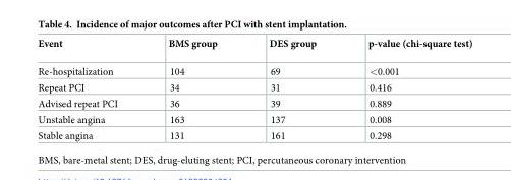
<table><thead><tr><td>Event</td><td>BMS group</td><td>DES group</td><td>p-value (chi-square test)</td></tr></thead><tbody><tr><td>Re-hospitalization</td><td>104</td><td>69</td><td>&lt;0.001</td></tr><tr><td>Repeat PCI</td><td>34</td><td>31</td><td>0.416</td></tr><tr><td>Advised repeat PCI</td><td>36</td><td>39</td><td>0.889</td></tr><tr><td>Unstable angina</td><td>163</td><td>137</td><td>0.008</td></tr><tr><td>Stable angina</td><td>131</td><td>161</td><td>0.298</td></tr></tbody></table>